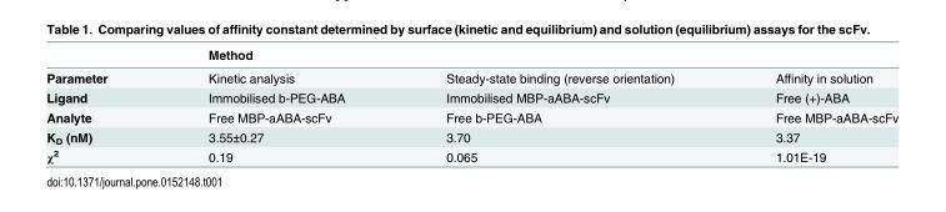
<table><thead><tr><td rowspan="2">Parameter</td><td colspan="3">Method</td></tr><tr><td>Kinetic analysis</td><td>Steady-state binding (reverse orientation)</td><td>Affinity in solution</td></tr></thead><tbody><tr><td>Ligand</td><td>Immobilised b-PEG-ABA</td><td>Immobilised MBP-aABA-scFv</td><td>Free (+)-ABA</td></tr><tr><td>Analyte</td><td>Free MBP-aABA-scFv</td><td>Free b-PEG-ABA</td><td>Free MBP-aABA-scFv</td></tr><tr><td>K<sub>D</sub> (nM)</td><td>3.55±0.27</td><td>3.70</td><td>3.37</td></tr><tr><td>χ<sup>2</sup></td><td>0.19</td><td>0.065</td><td>1.01E-19</td></tr></tbody></table>